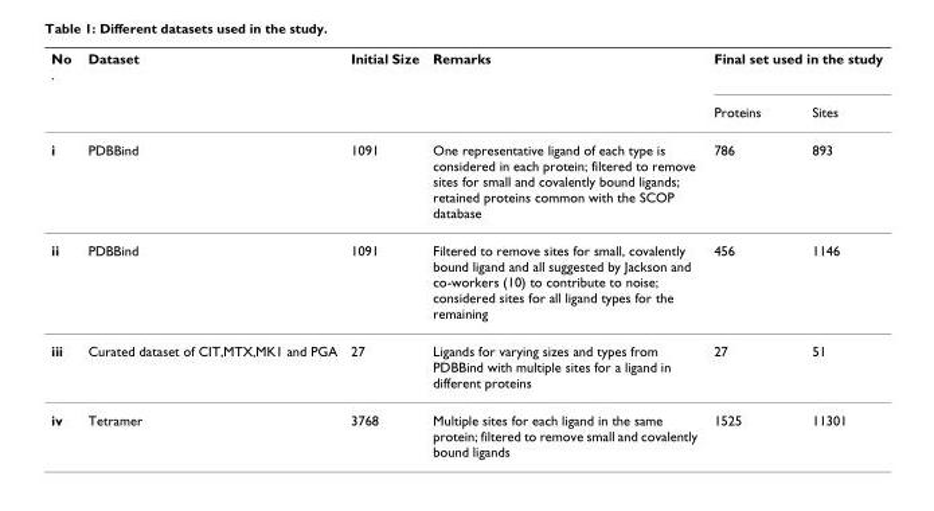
<table><thead><tr><td rowspan="2">No .</td><td rowspan="2">Dataset</td><td rowspan="2">Initial Size</td><td rowspan="2">Remarks</td><td colspan="2">Final set used in the study</td></tr><tr><td>Proteins</td><td>Sites</td></tr></thead><tbody><tr><td>i</td><td>PDBBind</td><td>1091</td><td>One representative ligand of each type is considered in each protein; filtered to remove sites for small and covalently bound ligands; retained proteins common with the SCOP database</td><td>786</td><td>893</td></tr><tr><td>ii</td><td>PDBBind</td><td>1091</td><td>Filtered to remove sites for small, covalently bound ligand and all suggested by Jackson and co-workers (10) to contribute to noise; considered sites for all ligand types for the remaining</td><td>456</td><td>1146</td></tr><tr><td>iii</td><td>Curated dataset of CIT,MTX,MK1 and PGA</td><td>27</td><td>Ligands for varying sizes and types from PDBBind with multiple sites for a ligand in different proteins</td><td>27</td><td>51</td></tr><tr><td>iv</td><td>Tetramer</td><td>3768</td><td>Multiple sites for each ligand in the same protein; filtered to remove small and covalently bound ligands</td><td>1525</td><td>11301</td></tr></tbody></table>